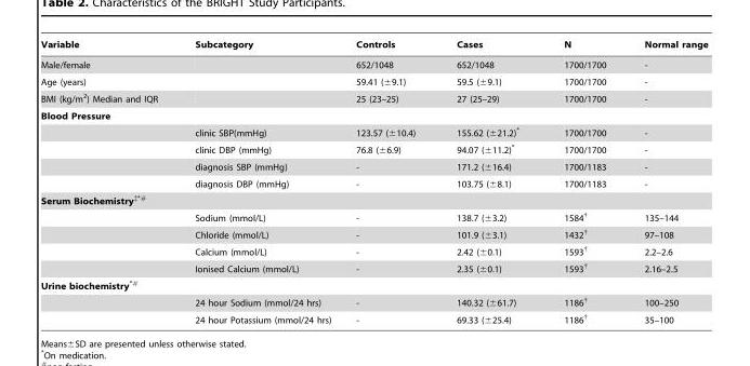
<table><thead><tr><td>Variable</td><td>Subcategory</td><td>Controls</td><td>Cases</td><td>N</td><td>Normal range</td></tr></thead><tbody><tr><td>Male/female</td><td></td><td>652/1048</td><td>652/1048</td><td>1700/1700</td><td>-</td></tr><tr><td>Age (years)</td><td></td><td>59.41 (±9.1)</td><td>59.5 (±9.1)</td><td>1700/1700</td><td>-</td></tr><tr><td>BMI (kg/m<sup>2</sup>) Median and IQR</td><td></td><td>25 (23–25)</td><td>27 (25–29)</td><td>1700/1700</td><td>-</td></tr><tr><td colspan="6">Blood Pressure</td></tr><tr><td></td><td>clinic SBP(mmHg)</td><td>123.57 (±10.4)</td><td>155.62 (±21.2)*</td><td>1700/1700</td><td>-</td></tr><tr><td></td><td>clinic DBP (mmHg)</td><td>76.8 (±6.9)</td><td>94.07 (±11.2)*</td><td>1700/1700</td><td>-</td></tr><tr><td></td><td>diagnosis SBP (mmHg)</td><td>-</td><td>171.2 (±16.4)</td><td>1700/1183</td><td>-</td></tr><tr><td></td><td>diagnosis DBP (mmHg)</td><td>-</td><td>103.75 (±8.1)</td><td>1700/1183</td><td>-</td></tr><tr><td colspan="6">Serum Biochemistry‡*#</td></tr><tr><td></td><td>Sodium (mmol/L)</td><td>-</td><td>138.7 (±3.2)</td><td>1584†</td><td>135–144</td></tr><tr><td></td><td>Chloride (mmol/L)</td><td>-</td><td>101.9 (±3.1)</td><td>1432†</td><td>97–108</td></tr><tr><td></td><td>Calcium (mmol/L)</td><td>-</td><td>2.42 (±0.1)</td><td>1593†</td><td>2.2–2.6</td></tr><tr><td></td><td>Ionised Calcium (mmol/L)</td><td>-</td><td>2.35 (±0.1)</td><td>1593†</td><td>2.16–2.5</td></tr><tr><td colspan="6">Urine biochemistry*#</td></tr><tr><td></td><td>24 hour Sodium (mmol/24 hrs)</td><td>-</td><td>140.32 (±61.7)</td><td>1186†</td><td>100–250</td></tr><tr><td></td><td>24 hour Potassium (mmol/24 hrs)</td><td>-</td><td>69.33 (±25.4)</td><td>1186†</td><td>35–100</td></tr></tbody></table>